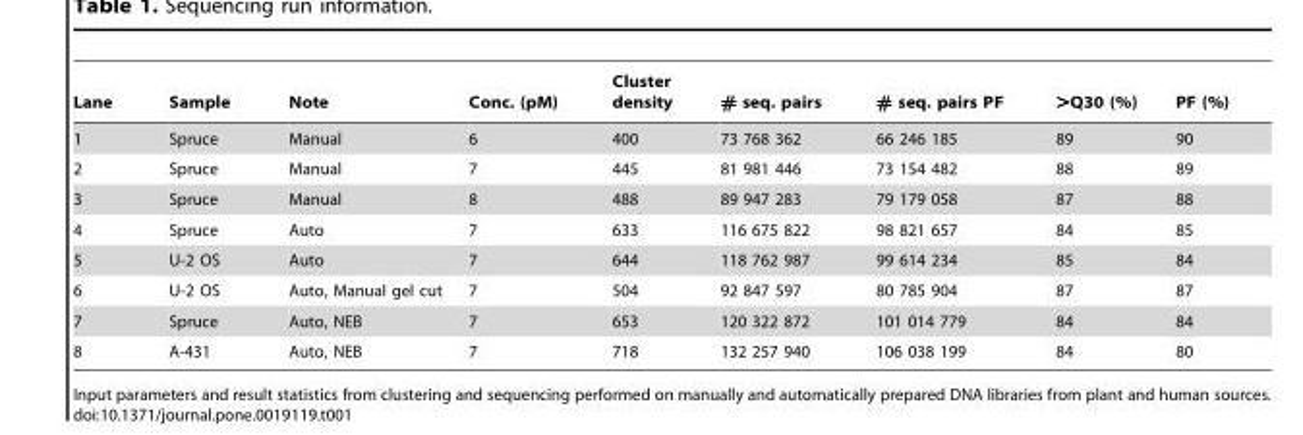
<table><thead><tr><td>Lane</td><td>Sample</td><td>Note</td><td>Conc. (pM)</td><td>Cluster density</td><td># seq. pairs</td><td># seq. pairs PF</td><td>&gt;Q30 (%)</td><td>PF (%)</td></tr></thead><tbody><tr><td>1</td><td>Spruce</td><td>Manual</td><td>6</td><td>400</td><td>73 768 362</td><td>66 246 185</td><td>89</td><td>90</td></tr><tr><td>2</td><td>Spruce</td><td>Manual</td><td>7</td><td>445</td><td>81 981 446</td><td>73 154 482</td><td>88</td><td>89</td></tr><tr><td>3</td><td>Spruce</td><td>Manual</td><td>8</td><td>488</td><td>89 947 283</td><td>79 179 058</td><td>87</td><td>88</td></tr><tr><td>4</td><td>Spruce</td><td>Auto</td><td>7</td><td>633</td><td>116 675 822</td><td>98 821 657</td><td>84</td><td>85</td></tr><tr><td>5</td><td>U-2 OS</td><td>Auto</td><td>7</td><td>644</td><td>118 762 987</td><td>99 614 234</td><td>85</td><td>84</td></tr><tr><td>6</td><td>U-2 OS</td><td>Auto, Manual gel cut</td><td>7</td><td>504</td><td>92 847 597</td><td>80 785 904</td><td>87</td><td>87</td></tr><tr><td>7</td><td>Spruce</td><td>Auto, NEB</td><td>7</td><td>653</td><td>120 322 872</td><td>101 014 779</td><td>84</td><td>84</td></tr><tr><td>8</td><td>A-431</td><td>Auto, NEB</td><td>7</td><td>718</td><td>132 257 940</td><td>106 038 199</td><td>84</td><td>80</td></tr></tbody></table>